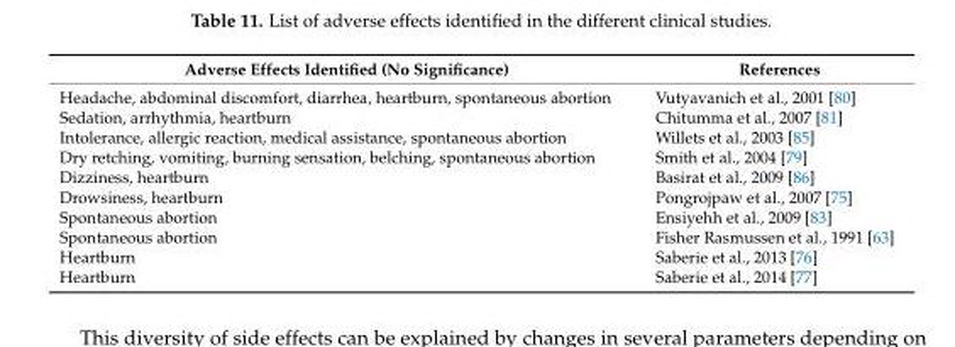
<table><thead><tr><td>Adverse Effects Identified (No Significance)</td><td>References</td></tr></thead><tbody><tr><td>Headache, abdominal discomfort, diarrhea, heartburn, spontaneous abortion</td><td>Vutyavanich et al., 2001 [80]</td></tr><tr><td>Sedation, arrhythmia, heartburn</td><td>Chitumma et al., 2007 [81]</td></tr><tr><td>Intolerance, allergic reaction, medical assistance, spontaneous abortion</td><td>Willets et al., 2003 [85]</td></tr><tr><td>Dry retching, vomiting, burning sensation, belching, spontaneous abortion</td><td>Smith et al., 2004 [79]</td></tr><tr><td>Dizziness, heartburn</td><td>Basirat et al., 2009 [86]</td></tr><tr><td>Drowsiness, heartburn</td><td>Pongrojpaw et al., 2007 [75]</td></tr><tr><td>Spontaneous abortion</td><td>Ensiyehh et al., 2009 [83]</td></tr><tr><td>Spontaneous abortion</td><td>Fisher Rasmussen et al., 1991 [63]</td></tr><tr><td>Heartburn</td><td>Saberie et al., 2013 [76]</td></tr><tr><td>Heartburn</td><td>Saberie et al., 2014 [77]</td></tr></tbody></table>